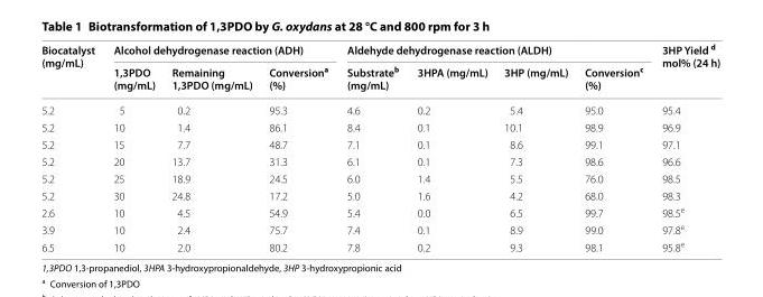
<table><thead><tr><td rowspan="2">Biocatalyst (mg/mL)</td><td colspan="3">Alcohol dehydrogenase reaction (ADH)</td><td colspan="4">Aldehyde dehydrogenase reaction (ALDH)</td><td rowspan="2">3HP Yield <sup>d</sup> mol% (24 h)</td></tr><tr><td>1,3PDO (mg/mL)</td><td>Remaining 1,3PDO (mg/mL)</td><td>Conversion<sup>a</sup> (%)</td><td>Substrate<sup>b</sup> (mg/mL)</td><td>3HPA (mg/mL)</td><td>3HP (mg/mL)</td><td>Conversion<sup>c</sup> (%)</td></tr></thead><tbody><tr><td>5.2</td><td>5</td><td>0.2</td><td>95.3</td><td>4.6</td><td>0.2</td><td>5.4</td><td>95.0</td><td>95.4</td></tr><tr><td>5.2</td><td>10</td><td>1.4</td><td>86.1</td><td>8.4</td><td>0.1</td><td>10.1</td><td>98.9</td><td>96.9</td></tr><tr><td>5.2</td><td>15</td><td>7.7</td><td>48.7</td><td>7.1</td><td>0.1</td><td>8.6</td><td>99.1</td><td>97.1</td></tr><tr><td>5.2</td><td>20</td><td>13.7</td><td>31.3</td><td>6.1</td><td>0.1</td><td>7.3</td><td>98.6</td><td>96.6</td></tr><tr><td>5.2</td><td>25</td><td>18.9</td><td>24.5</td><td>6.0</td><td>1.4</td><td>5.5</td><td>76.0</td><td>98.5</td></tr><tr><td>5.2</td><td>30</td><td>24.8</td><td>17.2</td><td>5.0</td><td>1.6</td><td>4.2</td><td>68.0</td><td>98.3</td></tr><tr><td>2.6</td><td>10</td><td>4.5</td><td>54.9</td><td>5.4</td><td>0.0</td><td>6.5</td><td>99.7</td><td>98.5<sup>e</sup></td></tr><tr><td>3.9</td><td>10</td><td>2.4</td><td>75.7</td><td>7.4</td><td>0.1</td><td>8.9</td><td>99.0</td><td>97.8<sup>e</sup></td></tr><tr><td>6.5</td><td>10</td><td>2.0</td><td>80.2</td><td>7.8</td><td>0.2</td><td>9.3</td><td>98.1</td><td>95.8<sup>e</sup></td></tr></tbody></table>